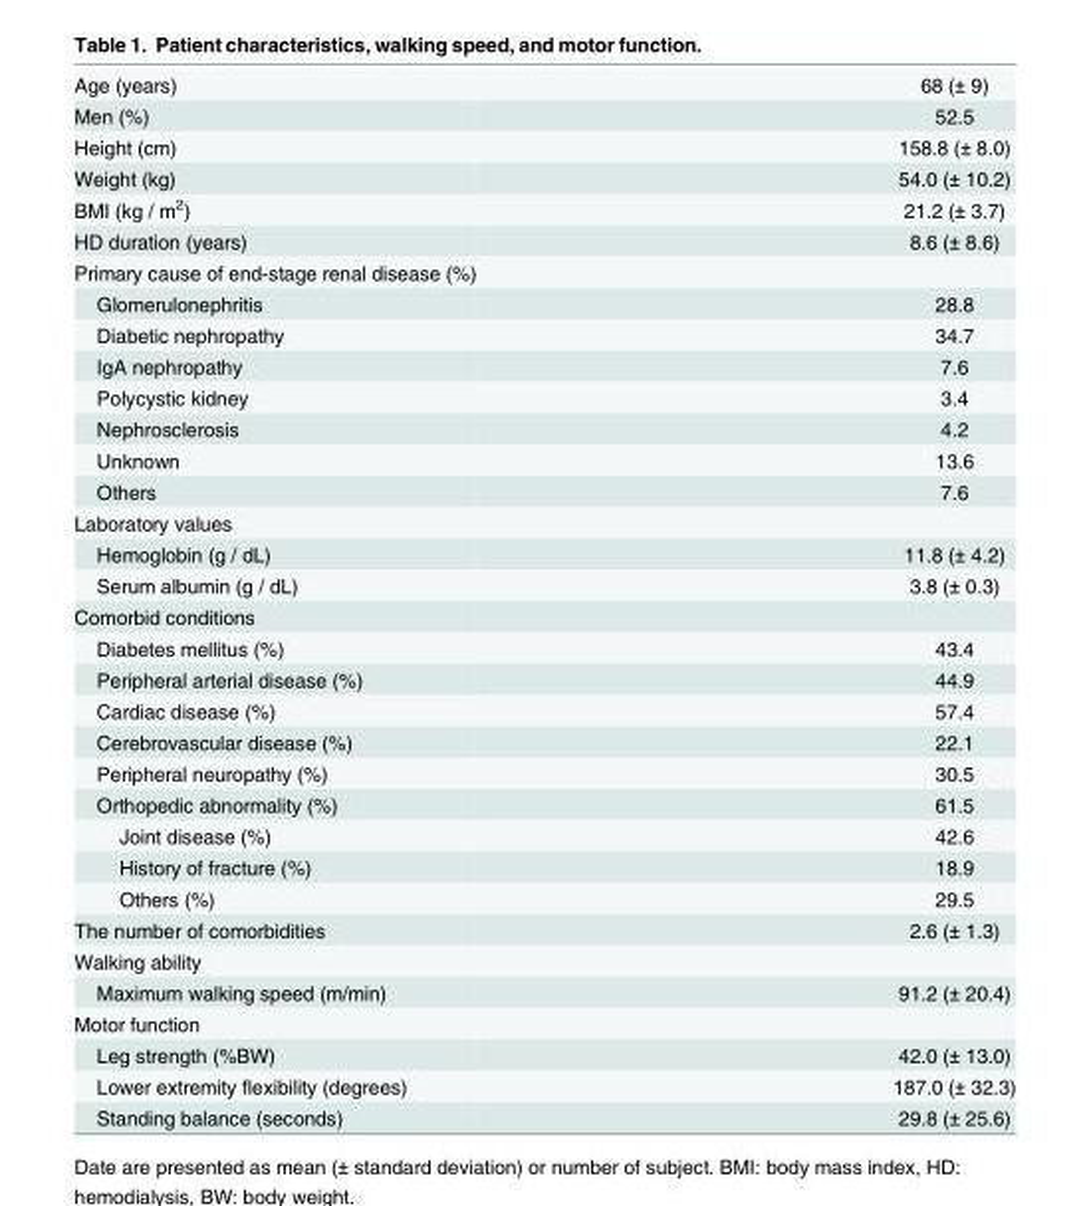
<table><tbody><tr><td>Age (years)</td><td>68 (± 9)</td></tr><tr><td>Men (%)</td><td>52.5</td></tr><tr><td>Height (cm)</td><td>158.8 (± 8.0)</td></tr><tr><td>Weight (kg)</td><td>54.0 (± 10.2)</td></tr><tr><td>BMI (kg / m<sup>2</sup>)</td><td>21.2 (± 3.7)</td></tr><tr><td>HD duration (years)</td><td>8.6 (± 8.6)</td></tr><tr><td colspan="2">Primary cause of end-stage renal disease (%)</td></tr><tr><td>Glomerulonephritis</td><td>28.8</td></tr><tr><td>Diabetic nephropathy</td><td>34.7</td></tr><tr><td>IgA nephropathy</td><td>7.6</td></tr><tr><td>Polycystic kidney</td><td>3.4</td></tr><tr><td>Nephrosclerosis</td><td>4.2</td></tr><tr><td>Unknown</td><td>13.6</td></tr><tr><td>Others</td><td>7.6</td></tr><tr><td colspan="2">Laboratory values</td></tr><tr><td>Hemoglobin (g / dL)</td><td>11.8 (± 4.2)</td></tr><tr><td>Serum albumin (g / dL)</td><td>3.8 (± 0.3)</td></tr><tr><td colspan="2">Comorbid conditions</td></tr><tr><td>Diabetes mellitus (%)</td><td>43.4</td></tr><tr><td>Peripheral arterial disease (%)</td><td>44.9</td></tr><tr><td>Cardiac disease (%)</td><td>57.4</td></tr><tr><td>Cerebrovascular disease (%)</td><td>22.1</td></tr><tr><td>Peripheral neuropathy (%)</td><td>30.5</td></tr><tr><td>Orthopedic abnormality (%)</td><td>61.5</td></tr><tr><td>Joint disease (%)</td><td>42.6</td></tr><tr><td>History of fracture (%)</td><td>18.9</td></tr><tr><td>Others (%)</td><td>29.5</td></tr><tr><td>The number of comorbidities</td><td>2.6 (± 1.3)</td></tr><tr><td colspan="2">Walking ability</td></tr><tr><td>Maximum walking speed (m/min)</td><td>91.2 (± 20.4)</td></tr><tr><td colspan="2">Motor function</td></tr><tr><td>Leg strength (%BW)</td><td>42.0 (± 13.0)</td></tr><tr><td>Lower extremity flexibility (degrees)</td><td>187.0 (± 32.3)</td></tr><tr><td>Standing balance (seconds)</td><td>29.8 (± 25.6)</td></tr></tbody></table>